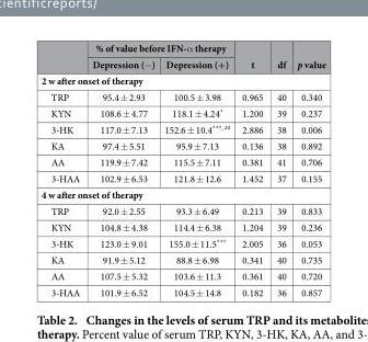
<table><thead><tr><td rowspan="2"></td><td colspan="2">% of value before IFN-α therapy</td><td rowspan="2">t</td><td rowspan="2">df</td><td rowspan="2">p value</td></tr><tr><td>Depression (− )</td><td>Depression (+)</td></tr></thead><tbody><tr><td colspan="6">2 w after onset of therapy</td></tr><tr><td>TRP</td><td>95.4 ± 2.93</td><td>100.5 ± 3.98</td><td>0.965</td><td>40</td><td>0.340</td></tr><tr><td>KYN</td><td>108.6 ± 4.77</td><td>118.1 ± 4.24*</td><td>1.200</td><td>39</td><td>0.237</td></tr><tr><td>3-HK</td><td>117.0 ± 7.13</td><td>152.6 ± 10.4<sup>***, ##</sup></td><td>2.886</td><td>38</td><td>0.006</td></tr><tr><td>KA</td><td>97.4 ± 5.51</td><td>95.9 ± 7.13</td><td>0.136</td><td>38</td><td>0.892</td></tr><tr><td>AA</td><td>119.9 ± 7.42</td><td>115.5 ± 7.11</td><td>0.381</td><td>41</td><td>0.706</td></tr><tr><td>3-HAA</td><td>102.9 ± 6.53</td><td>121.8 ± 12.6</td><td>1.452</td><td>37</td><td>0.155</td></tr><tr><td colspan="6">4 w after onset of therapy</td></tr><tr><td>TRP</td><td>92.0 ± 2.55</td><td>93.3 ± 6.49</td><td>0.213</td><td>39</td><td>0.833</td></tr><tr><td>KYN</td><td>104.8 ± 4.38</td><td>114.4 ± 6.38</td><td>1.204</td><td>39</td><td>0.236</td></tr><tr><td>3-HK</td><td>123.0 ± 9.01</td><td>155.0 ± 11.5***</td><td>2.005</td><td>36</td><td>0.053</td></tr><tr><td>KA</td><td>91.9 ± 5.12</td><td>88.8 ± 6.98</td><td>0.341</td><td>40</td><td>0.735</td></tr><tr><td>AA</td><td>107.5 ± 5.32</td><td>103.6 ± 11.3</td><td>0.361</td><td>40</td><td>0.720</td></tr><tr><td>3-HAA</td><td>101.9 ± 6.52</td><td>104.5 ± 14.8</td><td>0.182</td><td>36</td><td>0.857</td></tr></tbody></table>